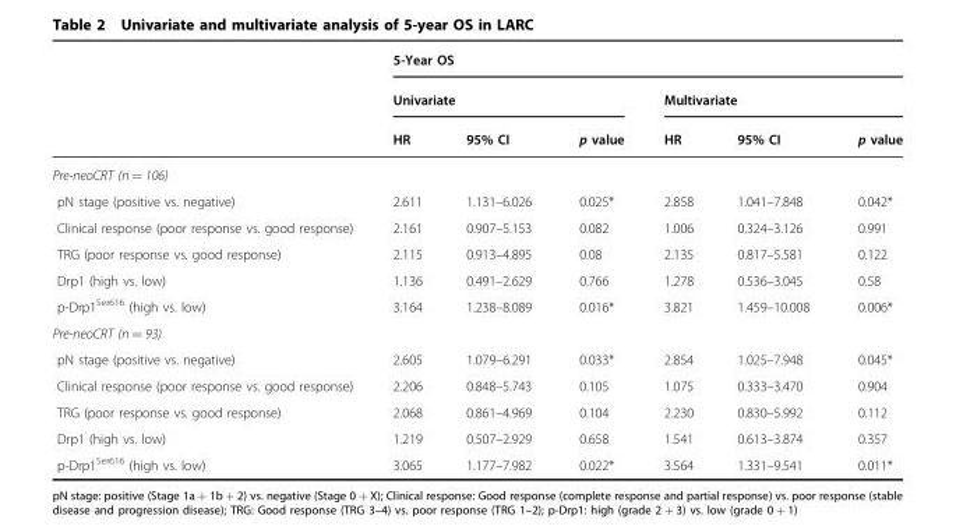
<table><thead><tr><td rowspan="3"></td><td colspan="6">5-Year OS</td></tr><tr><td colspan="3">Univariate</td><td colspan="3">Multivariate</td></tr><tr><td>HR</td><td>95% CI</td><td>p value</td><td>HR</td><td>95% CI</td><td>p value</td></tr></thead><tbody><tr><td colspan="7">Pre-neoCRT (n = 106)</td></tr><tr><td>pN stage (positive vs. negative)</td><td>2.611</td><td>1.131–6.026</td><td>0.025*</td><td>2.858</td><td>1.041–7.848</td><td>0.042*</td></tr><tr><td>Clinical response (poor response vs. good response)</td><td>2.161</td><td>0.907–5.153</td><td>0.082</td><td>1.006</td><td>0.324–3.126</td><td>0.991</td></tr><tr><td>TRG (poor response vs. good response)</td><td>2.115</td><td>0.913–4.895</td><td>0.08</td><td>2.135</td><td>0.817–5.581</td><td>0.122</td></tr><tr><td>Drp1 (high vs. low)</td><td>1.136</td><td>0.491–2.629</td><td>0.766</td><td>1.278</td><td>0.536–3.045</td><td>0.58</td></tr><tr><td>p-Drp1<sup>Ser616</sup> (high vs. low)</td><td>3.164</td><td>1.238–8.089</td><td>0.016*</td><td>3.821</td><td>1.459–10.008</td><td>0.006*</td></tr><tr><td colspan="7">Pre-neoCRT (n = 93)</td></tr><tr><td>pN stage (positive vs. negative)</td><td>2.605</td><td>1.079–6.291</td><td>0.033*</td><td>2.854</td><td>1.025–7.948</td><td>0.045*</td></tr><tr><td>Clinical response (poor response vs. good response)</td><td>2.206</td><td>0.848–5.743</td><td>0.105</td><td>1.075</td><td>0.333–3.470</td><td>0.904</td></tr><tr><td>TRG (poor response vs. good response)</td><td>2.068</td><td>0.861–4.969</td><td>0.104</td><td>2.230</td><td>0.830–5.992</td><td>0.112</td></tr><tr><td>Drp1 (high vs. low)</td><td>1.219</td><td>0.507–2.929</td><td>0.658</td><td>1.541</td><td>0.613–3.874</td><td>0.357</td></tr><tr><td>p-Drp1<sup>Ser616</sup> (high vs. low)</td><td>3.065</td><td>1.177–7.982</td><td>0.022*</td><td>3.564</td><td>1.331–9.541</td><td>0.011*</td></tr></tbody></table>